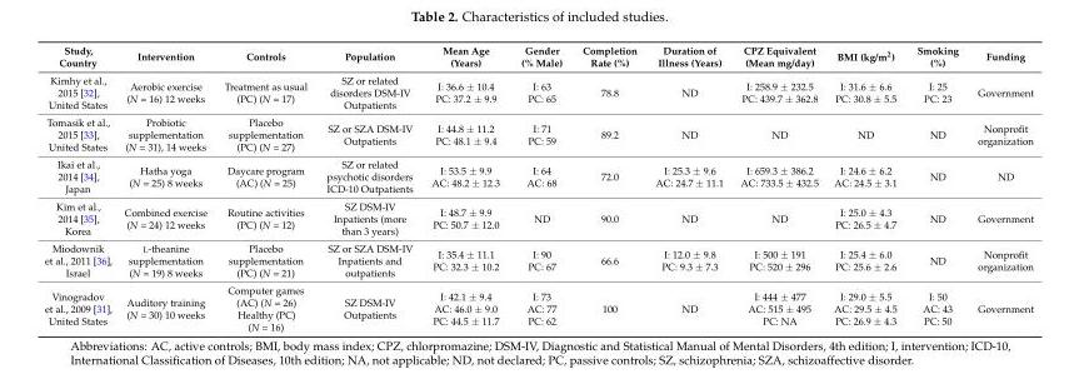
<table><thead><tr><td>Study, Country</td><td>Intervention</td><td>Controls</td><td>Population</td><td>Mean Age (Years)</td><td>Gender (% Male)</td><td>Completion Rate (%)</td><td>Duration of Illness (Years)</td><td>CPZ Equivalent (Mean mg/day)</td><td>BMI (kg/m<sup>2</sup>)</td><td>Smoking (%)</td><td>Funding</td></tr></thead><tbody><tr><td>Kimhy et al., 2015 [32], United States</td><td>Aerobic exercise (N = 16) 12 weeks</td><td>Treatment as usual (PC) (N = 17)</td><td>SZ or related disorders DSM-IV Outpatients</td><td>I: 36.6 ± 10.4 PC: 37.2 ± 9.9</td><td>I: 63 PC: 65</td><td>78.8</td><td>ND</td><td>I: 258.9 ± 232.5 PC: 439.7 ± 362.8</td><td>I: 31.6 ± 6.6 PC: 30.8 ± 5.5</td><td>I: 25 PC: 23</td><td>Government</td></tr><tr><td>Tomasik et al., 2015 [33], United States</td><td>Probiotic supplementation (N = 31), 14 weeks</td><td>Placebo supplementation (PC) (N = 27)</td><td>SZ or SZA DSM-IV Outpatients</td><td>I: 44.8 ± 11.2 PC: 48.1 ± 9.4</td><td>I: 71 PC: 59</td><td>89.2</td><td>ND</td><td>ND</td><td>ND</td><td>ND</td><td>Nonprofit organization</td></tr><tr><td>Ikai et al., 2014 [34], Japan</td><td>Hatha yoga (N = 25) 8 weeks</td><td>Daycare program (AC) (N = 25)</td><td>SZ or related psychotic disorders ICD-10 Outpatients</td><td>I: 53.5 ± 9.9 AC: 48.2 ± 12.3</td><td>I: 64 AC: 68</td><td>72.0</td><td>I: 25.3 ± 9.6 AC: 24.7 ± 11.1</td><td>I: 659.3 ± 386.2 AC: 733.5 ± 432.5</td><td>I: 24.6 ± 6.2 AC: 24.5 ± 3.1</td><td>ND</td><td>ND</td></tr><tr><td>Kim et al., 2014 [35], Korea</td><td>Combined exercise (N = 24) 12 weeks</td><td>Routine activities (PC) (N = 12)</td><td>SZ DSM-IV Inpatients (more than 3 years)</td><td>I: 48.7 ± 9.9 PC: 50.7 ± 12.0</td><td>ND</td><td>90.0</td><td>ND</td><td>ND</td><td>I: 25.0 ± 4.3 PC: 26.5 ± 4.7</td><td>ND</td><td>Government</td></tr><tr><td>Miodownik et al., 2011 [36], Israel</td><td>L-theanine supplementation (N = 19) 8 weeks</td><td>Placebo supplementation (PC) (N = 21)</td><td>SZ or SZA DSM-IV Inpatients and outpatients</td><td>I: 35.4 ± 11.1 PC: 32.3 ± 10.2</td><td>I: 90 PC: 67</td><td>66.6</td><td>I: 12.0 ± 9.8 PC: 9.3 ± 7.3</td><td>I: 500 ± 191 PC: 520 ± 296</td><td>I: 25.4 ± 6.0 PC: 25.6 ± 2.6</td><td>ND</td><td>Nonprofit organization</td></tr><tr><td>Vinogradov et al., 2009 [31], United States</td><td>Auditory training (N = 30) 10 weeks</td><td>Computer games (AC) (N = 26) Healthy (PC) (N = 16)</td><td>SZ DSM-IV Outpatients</td><td>I: 42.1 ± 9.4 AC: 46.0 ± 9.0 PC: 44.5 ± 11.7</td><td>I: 73 AC: 77 PC: 62</td><td>100</td><td>ND</td><td>I: 444 ± 477 AC: 515 ± 495 PC: NA</td><td>I: 29.0 ± 5.5 AC: 29.5 ± 4.5 PC: 26.9 ± 4.3</td><td>I: 50 AC: 43 PC: 50</td><td>Government</td></tr></tbody></table>